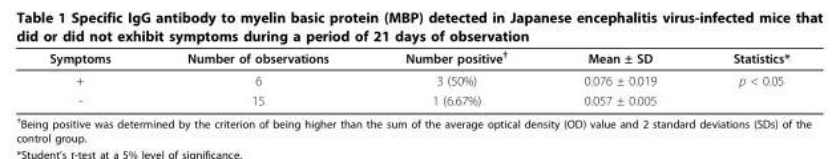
<table><thead><tr><td>Symptoms</td><td>Number of observations</td><td>Number positive<sup>†</sup></td><td>Mean ± SD</td><td>Statistics*</td></tr></thead><tbody><tr><td>+</td><td>6</td><td>3 (50%)</td><td>0.076 ± 0.019</td><td>p &lt; 0.05</td></tr><tr><td>-</td><td>15</td><td>1 (6.67%)</td><td>0.057 ± 0.005</td><td></td></tr></tbody></table>